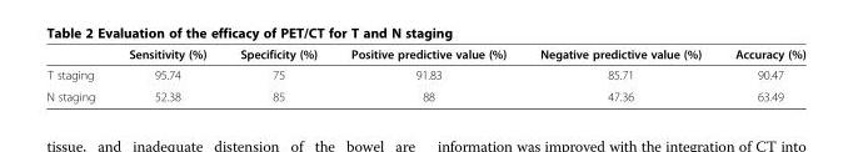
<table><thead><tr><td></td><td>Sensitivity (%)</td><td>Specificity (%)</td><td>Positive predictive value (%)</td><td>Negative predictive value (%)</td><td>Accuracy (%)</td></tr></thead><tbody><tr><td>T staging</td><td>95.74</td><td>75</td><td>91.83</td><td>85.71</td><td>90.47</td></tr><tr><td>N staging</td><td>52.38</td><td>85</td><td>88</td><td>47.36</td><td>63.49</td></tr></tbody></table>